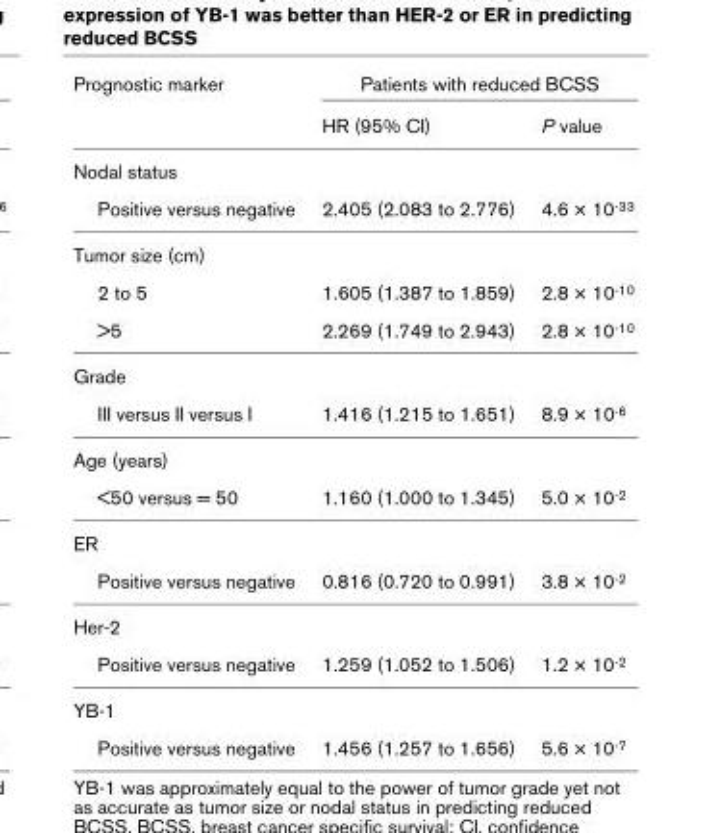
<table><thead><tr><td rowspan="2">Prognostic marker</td><td colspan="2">Patients with reduced BCSS</td></tr><tr><td>HR (95% CI)</td><td>P value</td></tr></thead><tbody><tr><td colspan="3">Nodal status</td></tr><tr><td>Positive versus negative</td><td>2.405 (2.083 to 2.776)</td><td>4.6 × 10<sup>-33</sup></td></tr><tr><td colspan="3">Tumor size (cm)</td></tr><tr><td>2 to 5</td><td>1.605 (1.387 to 1.859)</td><td>2.8 × 10<sup>-10</sup></td></tr><tr><td>&gt;5</td><td>2.269 (1.749 to 2.943)</td><td>2.8 × 10<sup>-10</sup></td></tr><tr><td colspan="3">Grade</td></tr><tr><td>III versus II versus I</td><td>1.416 (1.215 to 1.651)</td><td>8.9 × 10<sup>-6</sup></td></tr><tr><td colspan="3">Age (years)</td></tr><tr><td>&lt;50 versus = 50</td><td>1.160 (1.000 to 1.345)</td><td>5.0 × 10<sup>-2</sup></td></tr><tr><td colspan="3">ER</td></tr><tr><td>Positive versus negative</td><td>0.816 (0.720 to 0.991)</td><td>3.8 × 10<sup>-2</sup></td></tr><tr><td colspan="3">Her-2</td></tr><tr><td>Positive versus negative</td><td>1.259 (1.052 to 1.506)</td><td>1.2 × 10<sup>-2</sup></td></tr><tr><td colspan="3">YB-1</td></tr><tr><td>Positive versus negative</td><td>1.456 (1.257 to 1.656)</td><td>5.6 × 10<sup>-7</sup></td></tr></tbody></table>